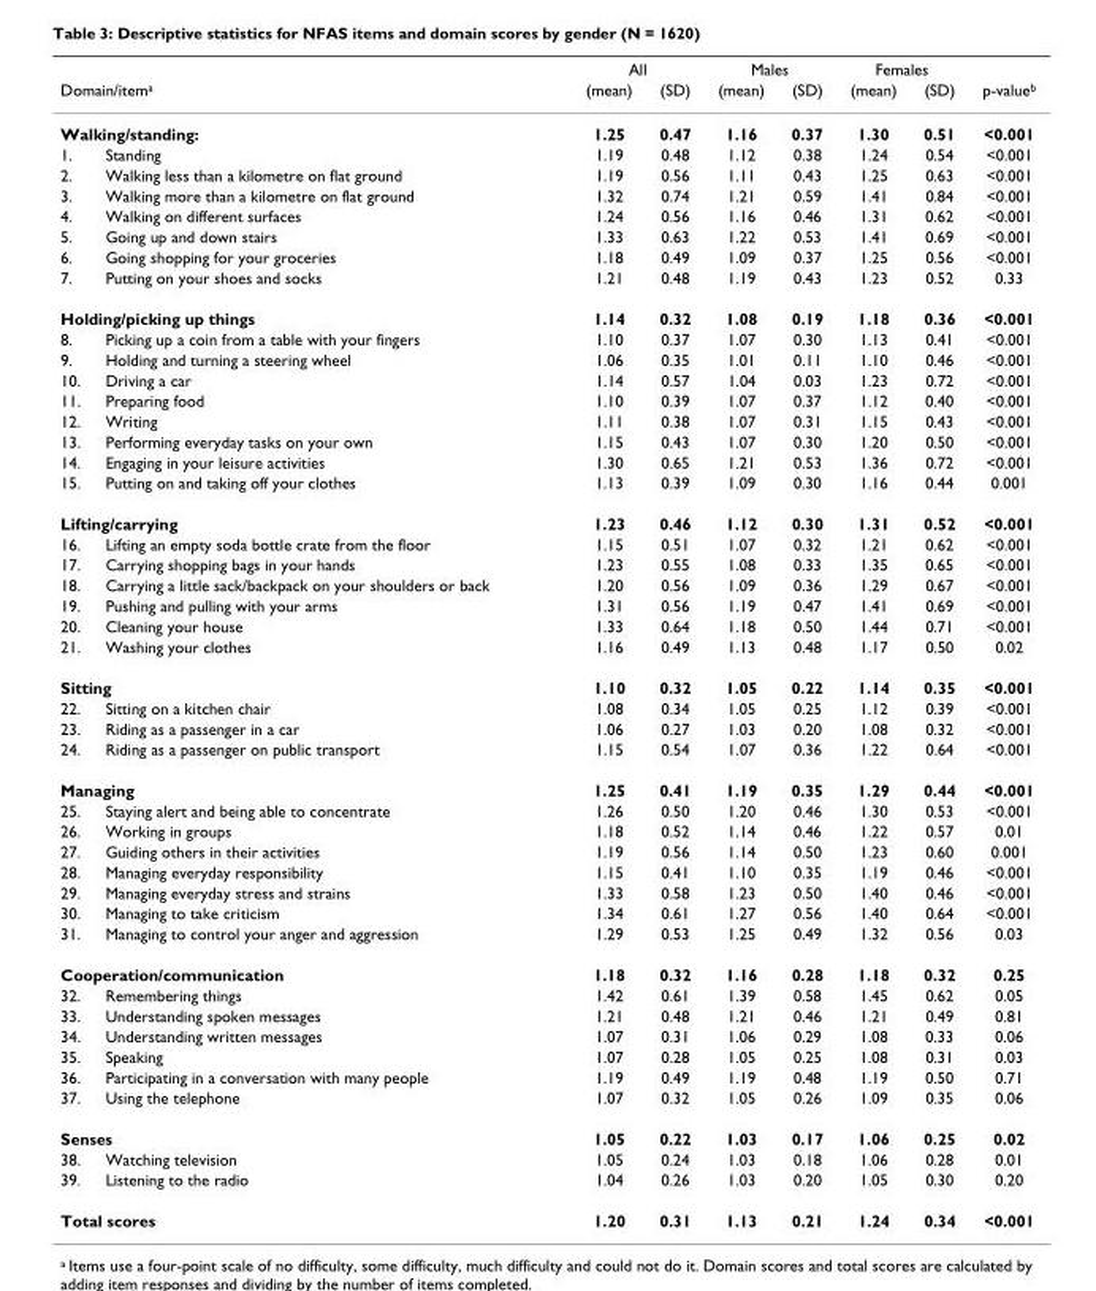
<table><thead><tr><td></td><td></td><td colspan="2">All</td><td colspan="2">Males</td><td colspan="2">Females</td><td rowspan="2">p-value<sup>b</sup></td></tr><tr><td colspan="2">Domain/item<sup>a</sup></td><td>(mean)</td><td>(SD)</td><td>(mean)</td><td>(SD)</td><td>(mean)</td><td>(SD)</td></tr></thead><tbody><tr><td colspan="2">Walking/standing:</td><td>1.25</td><td>0.47</td><td>1.16</td><td>0.37</td><td>1.30</td><td>0.51</td><td>&lt;0.001</td></tr><tr><td>1.</td><td>Standing</td><td>1.19</td><td>0.48</td><td>1.12</td><td>0.38</td><td>1.24</td><td>0.54</td><td>&lt;0.001</td></tr><tr><td>2.</td><td>Walking less than a kilometre on flat ground</td><td>1.19</td><td>0.56</td><td>1.11</td><td>0.43</td><td>1.25</td><td>0.63</td><td>&lt;0.001</td></tr><tr><td>3.</td><td>Walking more than a kilometre on flat ground</td><td>1.32</td><td>0.74</td><td>1.21</td><td>0.59</td><td>1.41</td><td>0.84</td><td>&lt;0.001</td></tr><tr><td>4.</td><td>Walking on different surfaces</td><td>1.24</td><td>0.56</td><td>1.16</td><td>0.46</td><td>1.31</td><td>0.62</td><td>&lt;0.001</td></tr><tr><td>5.</td><td>Going up and down stairs</td><td>1.33</td><td>0.63</td><td>1.22</td><td>0.53</td><td>1.41</td><td>0.69</td><td>&lt;0.001</td></tr><tr><td>6.</td><td>Going shopping for your groceries</td><td>1.18</td><td>0.49</td><td>1.09</td><td>0.37</td><td>1.25</td><td>0.56</td><td>&lt;0.001</td></tr><tr><td>7.</td><td>Putting on your shoes and socks</td><td>1.21</td><td>0.48</td><td>1.19</td><td>0.43</td><td>1.23</td><td>0.52</td><td>0.33</td></tr><tr><td colspan="2">Holding/picking up things</td><td>1.14</td><td>0.32</td><td>1.08</td><td>0.19</td><td>1.18</td><td>0.36</td><td>&lt;0.001</td></tr><tr><td>8.</td><td>Picking up a coin from a table with your fingers</td><td>1.10</td><td>0.37</td><td>1.07</td><td>0.30</td><td>1.13</td><td>0.41</td><td>&lt;0.001</td></tr><tr><td>9.</td><td>Holding and turning a steering wheel</td><td>1.06</td><td>0.35</td><td>1.01</td><td>0.11</td><td>1.10</td><td>0.46</td><td>&lt;0.001</td></tr><tr><td>10.</td><td>Driving a car</td><td>1.14</td><td>0.57</td><td>1.04</td><td>0.03</td><td>1.23</td><td>0.72</td><td>&lt;0.001</td></tr><tr><td>11.</td><td>Preparing food</td><td>1.10</td><td>0.39</td><td>1.07</td><td>0.37</td><td>1.12</td><td>0.40</td><td>&lt;0.001</td></tr><tr><td>12.</td><td>Writing</td><td>1.11</td><td>0.38</td><td>1.07</td><td>0.31</td><td>1.15</td><td>0.43</td><td>&lt;0.001</td></tr><tr><td>13.</td><td>Performing everyday tasks on your own</td><td>1.15</td><td>0.43</td><td>1.07</td><td>0.30</td><td>1.20</td><td>0.50</td><td>&lt;0.001</td></tr><tr><td>14.</td><td>Engaging in your leisure activities</td><td>1.30</td><td>0.65</td><td>1.21</td><td>0.53</td><td>1.36</td><td>0.72</td><td>&lt;0.001</td></tr><tr><td>15.</td><td>Putting on and taking off your clothes</td><td>1.13</td><td>0.39</td><td>1.09</td><td>0.30</td><td>1.16</td><td>0.44</td><td>0.001</td></tr><tr><td colspan="2">Lifting/carrying</td><td>1.23</td><td>0.46</td><td>1.12</td><td>0.30</td><td>1.31</td><td>0.52</td><td>&lt;0.001</td></tr><tr><td>16.</td><td>Lifting an empty soda bottle crate from the floor</td><td>1.15</td><td>0.51</td><td>1.07</td><td>0.32</td><td>1.21</td><td>0.62</td><td>&lt;0.001</td></tr><tr><td>17.</td><td>Carrying shopping bags in your hands</td><td>1.23</td><td>0.55</td><td>1.08</td><td>0.33</td><td>1.35</td><td>0.65</td><td>&lt;0.001</td></tr><tr><td>18.</td><td>Carrying a little sack/backpack on your shoulders or back</td><td>1.20</td><td>0.56</td><td>1.09</td><td>0.36</td><td>1.29</td><td>0.67</td><td>&lt;0.001</td></tr><tr><td>19.</td><td>Pushing and pulling with your arms</td><td>1.31</td><td>0.56</td><td>1.19</td><td>0.47</td><td>1.41</td><td>0.69</td><td>&lt;0.001</td></tr><tr><td>20.</td><td>Cleaning your house</td><td>1.33</td><td>0.64</td><td>1.18</td><td>0.50</td><td>1.44</td><td>0.71</td><td>&lt;0.001</td></tr><tr><td>21.</td><td>Washing your clothes</td><td>1.16</td><td>0.49</td><td>1.13</td><td>0.48</td><td>1.17</td><td>0.50</td><td>0.02</td></tr><tr><td colspan="2">Sitting</td><td>1.10</td><td>0.32</td><td>1.05</td><td>0.22</td><td>1.14</td><td>0.35</td><td>&lt;0.001</td></tr><tr><td>22.</td><td>Sitting on a kitchen chair</td><td>1.08</td><td>0.34</td><td>1.05</td><td>0.25</td><td>1.12</td><td>0.39</td><td>&lt;0.001</td></tr><tr><td>23.</td><td>Riding as a passenger in a car</td><td>1.06</td><td>0.27</td><td>1.03</td><td>0.20</td><td>1.08</td><td>0.32</td><td>&lt;0.001</td></tr><tr><td>24.</td><td>Riding as a passenger on public transport</td><td>1.15</td><td>0.54</td><td>1.07</td><td>0.36</td><td>1.22</td><td>0.64</td><td>&lt;0.001</td></tr><tr><td colspan="2">Managing</td><td>1.25</td><td>0.41</td><td>1.19</td><td>0.35</td><td>1.29</td><td>0.44</td><td>&lt;0.001</td></tr><tr><td>25.</td><td>Staying alert and being able to concentrate</td><td>1.26</td><td>0.50</td><td>1.20</td><td>0.46</td><td>1.30</td><td>0.53</td><td>&lt;0.001</td></tr><tr><td>26.</td><td>Working in groups</td><td>1.18</td><td>0.52</td><td>1.14</td><td>0.46</td><td>1.22</td><td>0.57</td><td>0.01</td></tr><tr><td>27.</td><td>Guiding others in their activities</td><td>1.19</td><td>0.56</td><td>1.14</td><td>0.50</td><td>1.23</td><td>0.60</td><td>0.001</td></tr><tr><td>28.</td><td>Managing everyday responsibility</td><td>1.15</td><td>0.41</td><td>1.10</td><td>0.35</td><td>1.19</td><td>0.46</td><td>&lt;0.001</td></tr><tr><td>29.</td><td>Managing everyday stress and strains</td><td>1.33</td><td>0.58</td><td>1.23</td><td>0.50</td><td>1.40</td><td>0.46</td><td>&lt;0.001</td></tr><tr><td>30.</td><td>Managing to take criticism</td><td>1.34</td><td>0.61</td><td>1.27</td><td>0.56</td><td>1.40</td><td>0.64</td><td>&lt;0.001</td></tr><tr><td>31.</td><td>Managing to control your anger and aggression</td><td>1.29</td><td>0.53</td><td>1.25</td><td>0.49</td><td>1.32</td><td>0.56</td><td>0.03</td></tr><tr><td colspan="2">Cooperation/communication</td><td>1.18</td><td>0.32</td><td>1.16</td><td>0.28</td><td>1.18</td><td>0.32</td><td>0.25</td></tr><tr><td>32.</td><td>Remembering things</td><td>1.42</td><td>0.61</td><td>1.39</td><td>0.58</td><td>1.45</td><td>0.62</td><td>0.05</td></tr><tr><td>33.</td><td>Understanding spoken messages</td><td>1.21</td><td>0.48</td><td>1.21</td><td>0.46</td><td>1.21</td><td>0.49</td><td>0.81</td></tr><tr><td>34.</td><td>Understanding written messages</td><td>1.07</td><td>0.31</td><td>1.06</td><td>0.29</td><td>1.08</td><td>0.33</td><td>0.06</td></tr><tr><td>35.</td><td>Speaking</td><td>1.07</td><td>0.28</td><td>1.05</td><td>0.25</td><td>1.08</td><td>0.31</td><td>0.03</td></tr><tr><td>36.</td><td>Participating in a conversation with many people</td><td>1.19</td><td>0.49</td><td>1.19</td><td>0.48</td><td>1.19</td><td>0.50</td><td>0.71</td></tr><tr><td>37.</td><td>Using the telephone</td><td>1.07</td><td>0.32</td><td>1.05</td><td>0.26</td><td>1.09</td><td>0.35</td><td>0.06</td></tr><tr><td colspan="2">Senses</td><td>1.05</td><td>0.22</td><td>1.03</td><td>0.17</td><td>1.06</td><td>0.25</td><td>0.02</td></tr><tr><td>38.</td><td>Watching television</td><td>1.05</td><td>0.24</td><td>1.03</td><td>0.18</td><td>1.06</td><td>0.28</td><td>0.01</td></tr><tr><td>39.</td><td>Listening to the radio</td><td>1.04</td><td>0.26</td><td>1.03</td><td>0.20</td><td>1.05</td><td>0.30</td><td>0.20</td></tr><tr><td colspan="2">Total scores</td><td>1.20</td><td>0.31</td><td>1.13</td><td>0.21</td><td>1.24</td><td>0.34</td><td>&lt;0.001</td></tr></tbody></table>